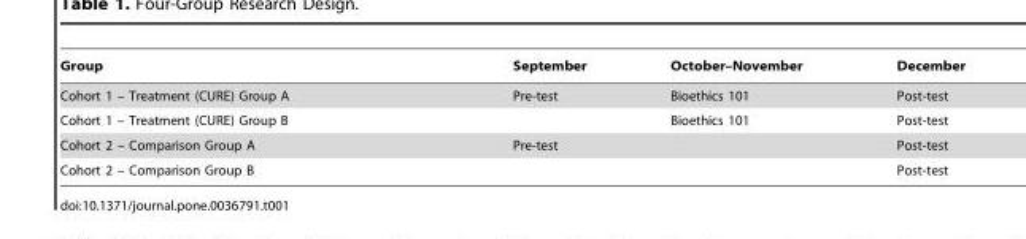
<table><thead><tr><td>Group</td><td>September</td><td>October–November</td><td>December</td></tr></thead><tbody><tr><td>Cohort 1 – Treatment (CURE) Group A</td><td>Pre-test</td><td>Bioethics 101</td><td>Post-test</td></tr><tr><td>Cohort 1 – Treatment (CURE) Group B</td><td></td><td>Bioethics 101</td><td>Post-test</td></tr><tr><td>Cohort 2 – Comparison Group A</td><td>Pre-test</td><td></td><td>Post-test</td></tr><tr><td>Cohort 2 – Comparison Group B</td><td></td><td></td><td>Post-test</td></tr></tbody></table>